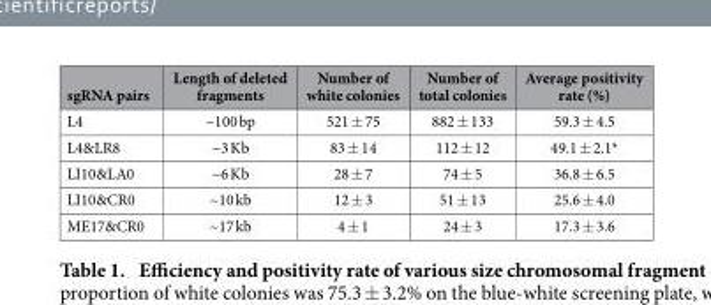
<table><thead><tr><td>sgRNA pairs</td><td>Length of deleted fragments</td><td>Number of white colonies</td><td>Number of total colonies</td><td>Average positivity rate (%)</td></tr></thead><tbody><tr><td>L4</td><td>~100 bp</td><td>521 ± 75</td><td>882 ± 133</td><td>59.3 ± 4.5</td></tr><tr><td>L4&amp;LR8</td><td>~3 Kb</td><td>83 ± 14</td><td>112 ± 12</td><td>49.1 ± 2.1*</td></tr><tr><td>LI10&amp;LA0</td><td>~6 Kb</td><td>28 ± 7</td><td>74 ± 5</td><td>36.8 ± 6.5</td></tr><tr><td>LI10&amp;CR0</td><td>~10 kb</td><td>12 ± 3</td><td>51 ± 13</td><td>25.6 ± 4.0</td></tr><tr><td>ME17&amp;CR0</td><td>~17 kb</td><td>4 ± 1</td><td>24 ± 3</td><td>17.3 ± 3.6</td></tr></tbody></table>